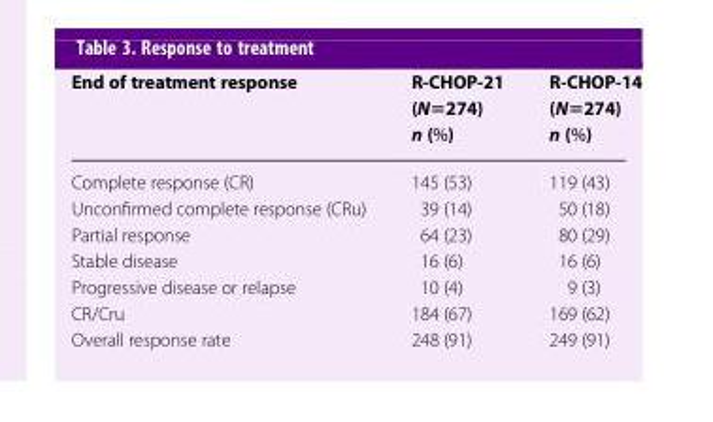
<table><thead><tr><td rowspan="3">End of treatment response</td><td rowspan="3">R-CHOP-21 (N=274) n (%)</td><td rowspan="3">R-CHOP-14 (N=274) n (%)</td></tr><tr></tr><tr></tr></thead><tbody><tr><td>Complete response (CR)</td><td>145 (53)</td><td>119 (43)</td></tr><tr><td>Unconfirmed complete response (CRu)</td><td>39 (14)</td><td>50 (18)</td></tr><tr><td>Partial response</td><td>64 (23)</td><td>80 (29)</td></tr><tr><td>Stable disease</td><td>16 (6)</td><td>16 (6)</td></tr><tr><td>Progressive disease or relapse</td><td>10 (4)</td><td>9 (3)</td></tr><tr><td>CR/Cru</td><td>184 (67)</td><td>169 (62)</td></tr><tr><td>Overall response rate</td><td>248 (91)</td><td>249 (91)</td></tr></tbody></table>